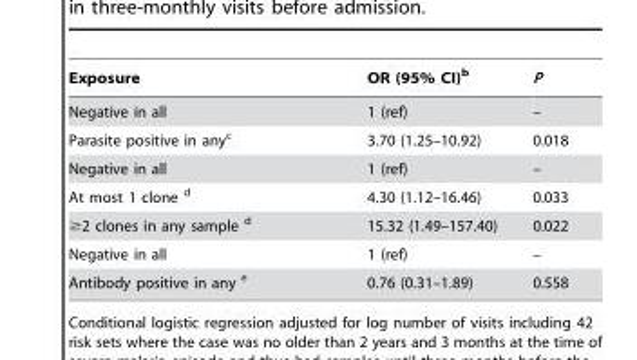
<table><thead><tr><td>Exposure</td><td>OR (95% CI)<sup>b</sup></td><td>P</td></tr></thead><tbody><tr><td>Negative in all</td><td>1 (ref)</td><td>–</td></tr><tr><td>Parasite positive in any<sup>c</sup></td><td>3.70 (1.25–10.92)</td><td>0.018</td></tr><tr><td>Negative in all</td><td>1 (ref)</td><td>–</td></tr><tr><td>At most 1 clone <sup>d</sup></td><td>4.30 (1.12–16.46)</td><td>0.033</td></tr><tr><td>≥2 clones in any sample <sup>d</sup></td><td>15.32 (1.49–157.40)</td><td>0.022</td></tr><tr><td>Negative in all</td><td>1 (ref)</td><td>–</td></tr><tr><td>Antibody positive in any <sup>e</sup></td><td>0.76 (0.31–1.89)</td><td>0.558</td></tr></tbody></table>